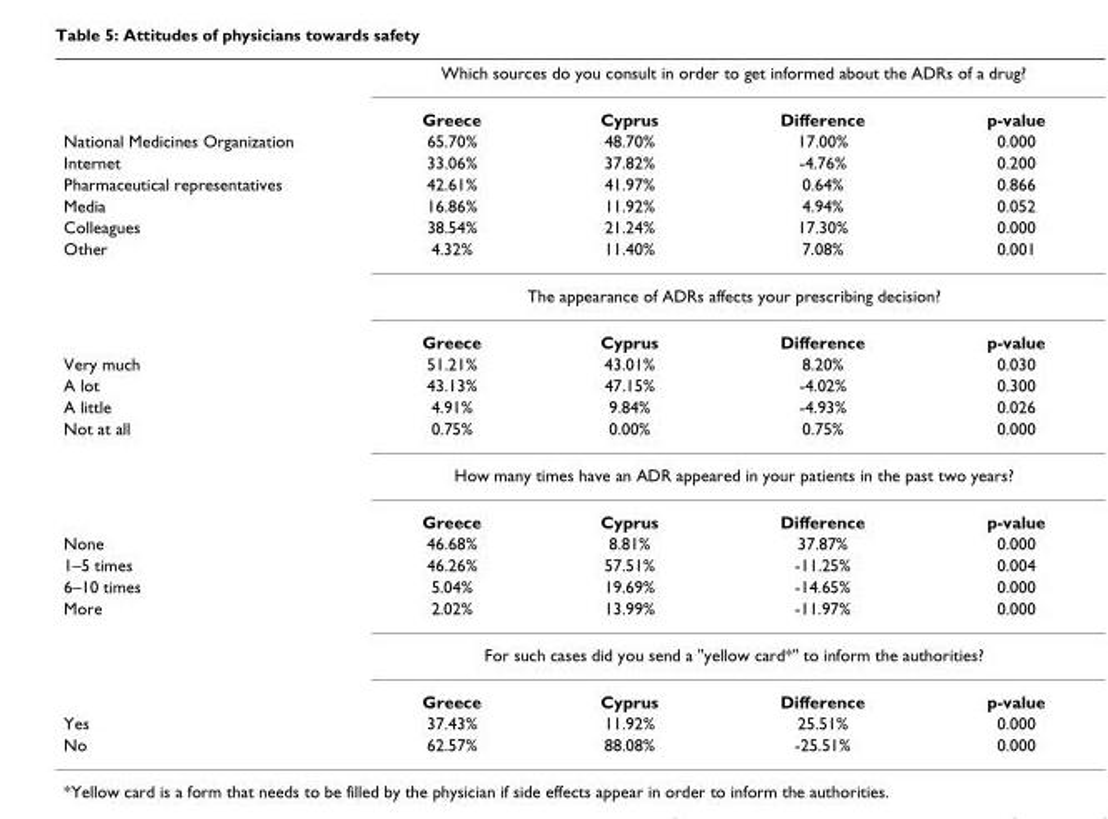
<table><thead><tr><td rowspan="2"></td><td colspan="4">Which sources do you consult in order to get informed about the ADRs of a drug?</td></tr><tr><td>Greece</td><td>Cyprus</td><td>Difference</td><td>p-value</td></tr></thead><tbody><tr><td>National Medicines Organization</td><td>65.70%</td><td>48.70%</td><td>17.00%</td><td>0.000</td></tr><tr><td>Internet</td><td>33.06%</td><td>37.82%</td><td>-4.76%</td><td>0.200</td></tr><tr><td>Pharmaceutical representatives</td><td>42.61%</td><td>41.97%</td><td>0.64%</td><td>0.866</td></tr><tr><td>Media</td><td>16.86%</td><td>11.92%</td><td>4.94%</td><td>0.052</td></tr><tr><td>Colleagues</td><td>38.54%</td><td>21.24%</td><td>17.30%</td><td>0.000</td></tr><tr><td rowspan="3">Other</td><td>4.32%</td><td>11.40%</td><td>7.08%</td><td>0.001</td></tr><tr><td colspan="4">The appearance of ADRs affects your prescribing decision?</td></tr><tr><td>Greece</td><td>Cyprus</td><td>Difference</td><td>p-value</td></tr><tr><td>Very much</td><td>51.21%</td><td>43.01%</td><td>8.20%</td><td>0.030</td></tr><tr><td>A lot</td><td>43.13%</td><td>47.15%</td><td>-4.02%</td><td>0.300</td></tr><tr><td>A little</td><td>4.91%</td><td>9.84%</td><td>-4.93%</td><td>0.026</td></tr><tr><td rowspan="3">Not at all</td><td>0.75%</td><td>0.00%</td><td>0.75%</td><td>0.000</td></tr><tr><td colspan="4">How many times have an ADR appeared in your patients in the past two years?</td></tr><tr><td>Greece</td><td>Cyprus</td><td>Difference</td><td>p-value</td></tr><tr><td>None</td><td>46.68%</td><td>8.81%</td><td>37.87%</td><td>0.000</td></tr><tr><td>1–5 times</td><td>46.26%</td><td>57.51%</td><td>-11.25%</td><td>0.004</td></tr><tr><td>6–10 times</td><td>5.04%</td><td>19.69%</td><td>-14.65%</td><td>0.000</td></tr><tr><td rowspan="3">More</td><td>2.02%</td><td>13.99%</td><td>-11.97%</td><td>0.000</td></tr><tr><td colspan="4">For such cases did you send a &quot;yellow card*&quot; to inform the authorities?</td></tr><tr><td>Greece</td><td>Cyprus</td><td>Difference</td><td>p-value</td></tr><tr><td>Yes</td><td>37.43%</td><td>11.92%</td><td>25.51%</td><td>0.000</td></tr><tr><td>No</td><td>62.57%</td><td>88.08%</td><td>-25.51%</td><td>0.000</td></tr></tbody></table>